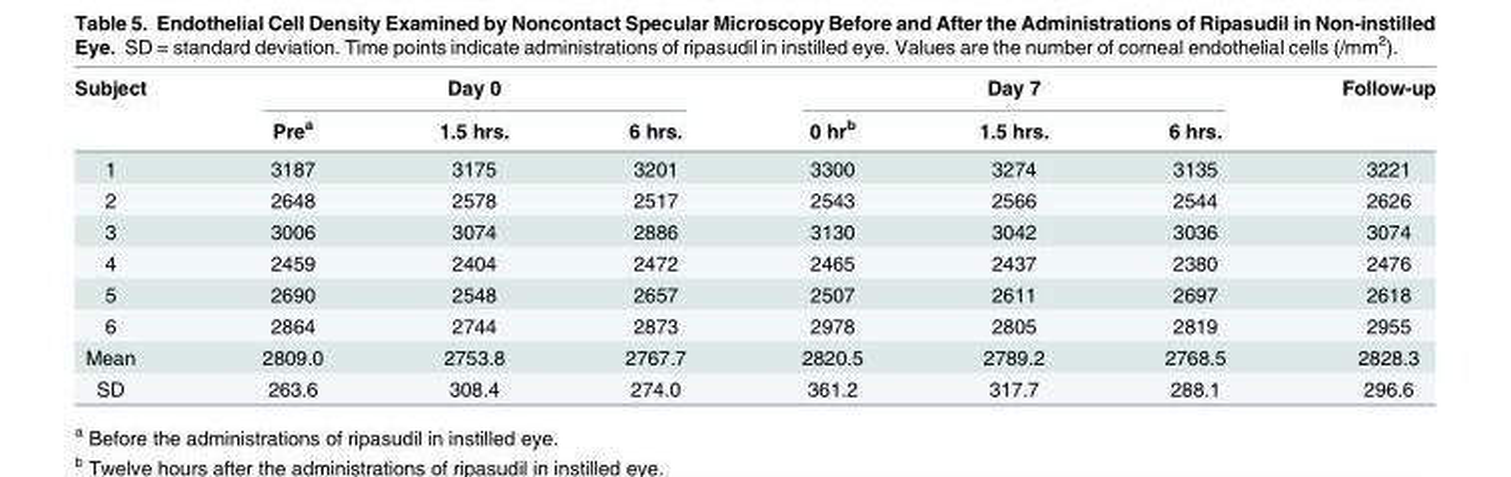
<table><thead><tr><td rowspan="2">Subject</td><td colspan="3">Day 0</td><td colspan="3">Day 7</td><td rowspan="2">Follow-up</td></tr><tr><td>Pre<sup>a</sup></td><td>1.5 hrs.</td><td>6 hrs.</td><td>0 hr<sup>b</sup></td><td>1.5 hrs.</td><td>6 hrs.</td></tr></thead><tbody><tr><td>1</td><td>3187</td><td>3175</td><td>3201</td><td>3300</td><td>3274</td><td>3135</td><td>3221</td></tr><tr><td>2</td><td>2648</td><td>2578</td><td>2517</td><td>2543</td><td>2566</td><td>2544</td><td>2626</td></tr><tr><td>3</td><td>3006</td><td>3074</td><td>2886</td><td>3130</td><td>3042</td><td>3036</td><td>3074</td></tr><tr><td>4</td><td>2459</td><td>2404</td><td>2472</td><td>2465</td><td>2437</td><td>2380</td><td>2476</td></tr><tr><td>5</td><td>2690</td><td>2548</td><td>2657</td><td>2507</td><td>2611</td><td>2697</td><td>2618</td></tr><tr><td>6</td><td>2864</td><td>2744</td><td>2873</td><td>2978</td><td>2805</td><td>2819</td><td>2955</td></tr><tr><td>Mean</td><td>2809.0</td><td>2753.8</td><td>2767.7</td><td>2820.5</td><td>2789.2</td><td>2768.5</td><td>2828.3</td></tr><tr><td>SD</td><td>263.6</td><td>308.4</td><td>274.0</td><td>361.2</td><td>317.7</td><td>288.1</td><td>296.6</td></tr></tbody></table>